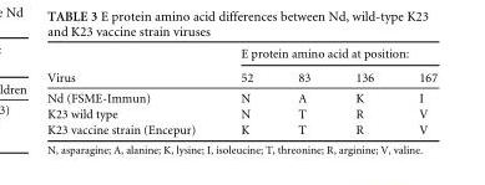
<table><thead><tr><td rowspan="2">Virus</td><td colspan="4">E protein amino acid at position:</td></tr><tr><td>52</td><td>83</td><td>136</td><td>167</td></tr></thead><tbody><tr><td>Nd (FSME-Immun)</td><td>N</td><td>A</td><td>K</td><td>I</td></tr><tr><td>K23 wild type</td><td>N</td><td>T</td><td>R</td><td>V</td></tr><tr><td>K23 vaccine strain (Encepur)</td><td>K</td><td>T</td><td>R</td><td>V</td></tr></tbody></table>